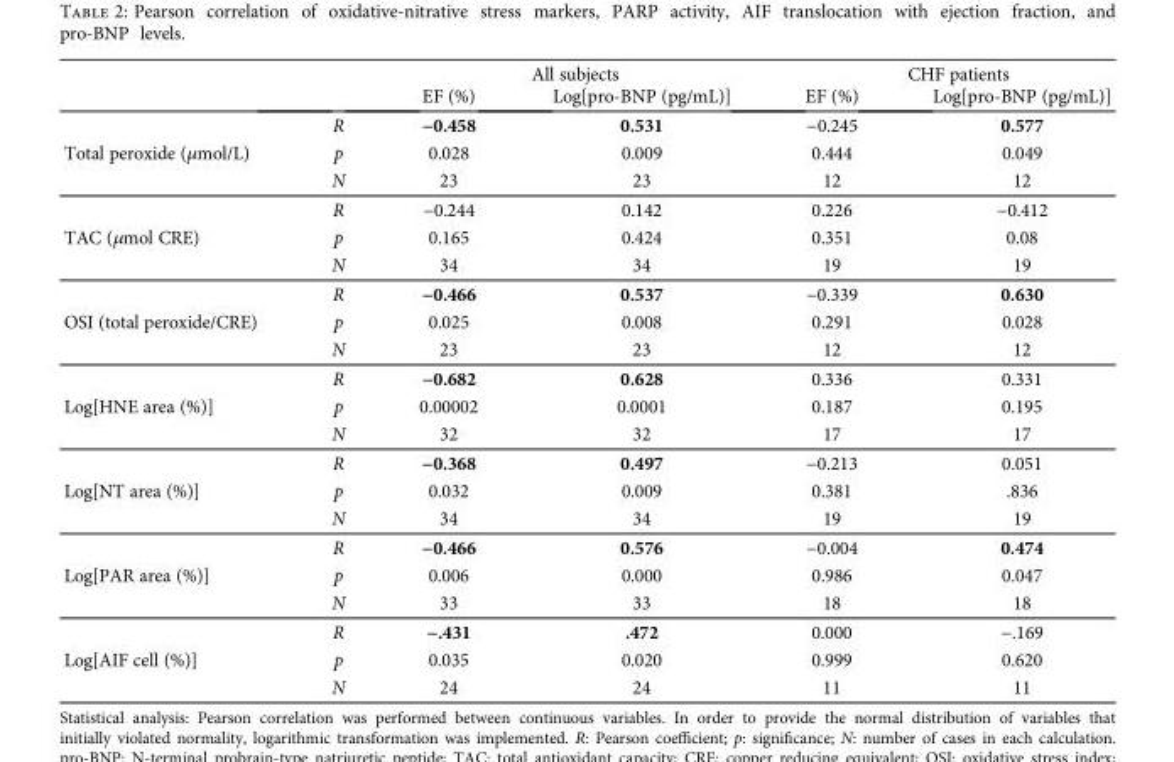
<table><thead><tr><td rowspan="2"></td><td rowspan="2"></td><td colspan="2">All subjects</td><td colspan="2">CHF patients</td></tr><tr><td>EF (%)</td><td>Log[pro-BNP (pg/mL)]</td><td>EF (%)</td><td>Log[pro-BNP (pg/mL)]</td></tr></thead><tbody><tr><td rowspan="3">Total peroxide (μmol/L)</td><td>R</td><td>−0.458</td><td>0.531</td><td>−0.245</td><td>0.577</td></tr><tr><td>p</td><td>0.028</td><td>0.009</td><td>0.444</td><td>0.049</td></tr><tr><td>N</td><td>23</td><td>23</td><td>12</td><td>12</td></tr><tr><td rowspan="3">TAC (μmol CRE)</td><td>R</td><td>−0.244</td><td>0.142</td><td>0.226</td><td>−0.412</td></tr><tr><td>p</td><td>0.165</td><td>0.424</td><td>0.351</td><td>0.08</td></tr><tr><td>N</td><td>34</td><td>34</td><td>19</td><td>19</td></tr><tr><td rowspan="3">OSI (total peroxide/CRE)</td><td>R</td><td>−0.466</td><td>0.537</td><td>−0.339</td><td>0.630</td></tr><tr><td>p</td><td>0.025</td><td>0.008</td><td>0.291</td><td>0.028</td></tr><tr><td>N</td><td>23</td><td>23</td><td>12</td><td>12</td></tr><tr><td rowspan="3">Log[HNE area (%)]</td><td>R</td><td>−0.682</td><td>0.628</td><td>0.336</td><td>0.331</td></tr><tr><td>p</td><td>0.00002</td><td>0.0001</td><td>0.187</td><td>0.195</td></tr><tr><td>N</td><td>32</td><td>32</td><td>17</td><td>17</td></tr><tr><td rowspan="3">Log[NT area (%)]</td><td>R</td><td>−0.368</td><td>0.497</td><td>−0.213</td><td>0.051</td></tr><tr><td>p</td><td>0.032</td><td>0.009</td><td>0.381</td><td>.836</td></tr><tr><td>N</td><td>34</td><td>34</td><td>19</td><td>19</td></tr><tr><td rowspan="3">Log[PAR area (%)]</td><td>R</td><td>−0.466</td><td>0.576</td><td>−0.004</td><td>0.474</td></tr><tr><td>p</td><td>0.006</td><td>0.000</td><td>0.986</td><td>0.047</td></tr><tr><td>N</td><td>33</td><td>33</td><td>18</td><td>18</td></tr><tr><td rowspan="3">Log[AIF cell (%)]</td><td>R</td><td>−.431</td><td>.472</td><td>0.000</td><td>−.169</td></tr><tr><td>p</td><td>0.035</td><td>0.020</td><td>0.999</td><td>0.620</td></tr><tr><td>N</td><td>24</td><td>24</td><td>11</td><td>11</td></tr></tbody></table>